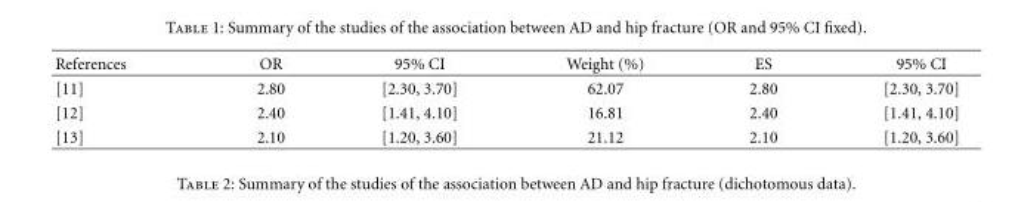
<table><thead><tr><td>References</td><td>OR</td><td>95% CI</td><td>Weight (%)</td><td>ES</td><td>95% CI</td></tr></thead><tbody><tr><td>[11]</td><td>2.80</td><td>[2.30, 3.70]</td><td>62.07</td><td>2.80</td><td>[2.30, 3.70]</td></tr><tr><td>[12]</td><td>2.40</td><td>[1.41, 4.10]</td><td>16.81</td><td>2.40</td><td>[1.41, 4.10]</td></tr><tr><td>[13]</td><td>2.10</td><td>[1.20, 3.60]</td><td>21.12</td><td>2.10</td><td>[1.20, 3.60]</td></tr></tbody></table>